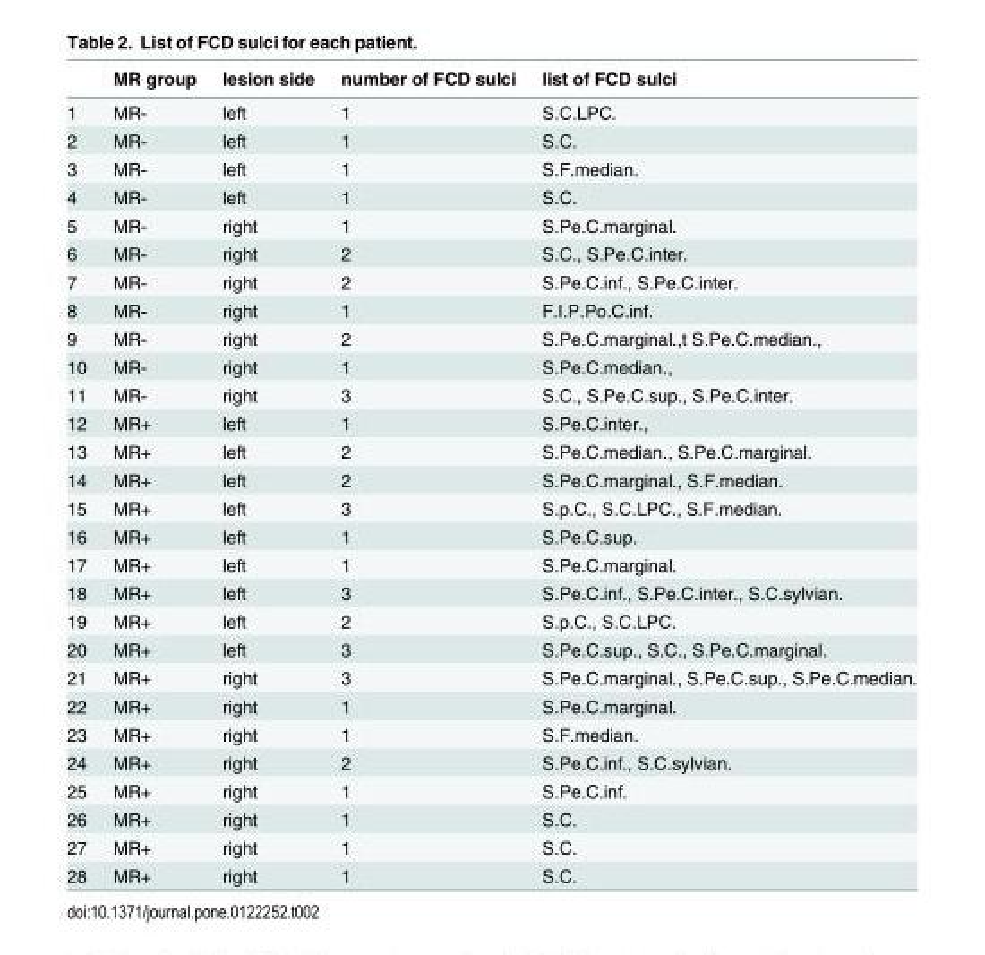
<table><thead><tr><td></td><td>MR group</td><td>lesion side</td><td>number of FCD sulci</td><td>list of FCD sulci</td></tr></thead><tbody><tr><td>1</td><td>MR-</td><td>left</td><td>1</td><td>S.C.LPC.</td></tr><tr><td>2</td><td>MR-</td><td>left</td><td>1</td><td>S.C.</td></tr><tr><td>3</td><td>MR-</td><td>left</td><td>1</td><td>S.F.median.</td></tr><tr><td>4</td><td>MR-</td><td>left</td><td>1</td><td>S.C.</td></tr><tr><td>5</td><td>MR-</td><td>right</td><td>1</td><td>S.Pe.C.marginal.</td></tr><tr><td>6</td><td>MR-</td><td>right</td><td>2</td><td>S.C., S.Pe.C.inter.</td></tr><tr><td>7</td><td>MR-</td><td>right</td><td>2</td><td>S.Pe.C.inf., S.Pe.C.inter.</td></tr><tr><td>8</td><td>MR-</td><td>right</td><td>1</td><td>F.I.P.Po.C.inf.</td></tr><tr><td>9</td><td>MR-</td><td>right</td><td>2</td><td>S.Pe.C.marginal.,t S.Pe.C.median.,</td></tr><tr><td>10</td><td>MR-</td><td>right</td><td>1</td><td>S.Pe.C.median.,</td></tr><tr><td>11</td><td>MR-</td><td>right</td><td>3</td><td>S.C., S.Pe.C.sup., S.Pe.C.inter.</td></tr><tr><td>12</td><td>MR+</td><td>left</td><td>1</td><td>S.Pe.C.inter.,</td></tr><tr><td>13</td><td>MR+</td><td>left</td><td>2</td><td>S.Pe.C.median., S.Pe.C.marginal.</td></tr><tr><td>14</td><td>MR+</td><td>left</td><td>2</td><td>S.Pe.C.marginal., S.F.median.</td></tr><tr><td>15</td><td>MR+</td><td>left</td><td>3</td><td>S.p.C., S.C.LPC., S.F.median.</td></tr><tr><td>16</td><td>MR+</td><td>left</td><td>1</td><td>S.Pe.C.sup.</td></tr><tr><td>17</td><td>MR+</td><td>left</td><td>1</td><td>S.Pe.C.marginal.</td></tr><tr><td>18</td><td>MR+</td><td>left</td><td>3</td><td>S.Pe.C.inf., S.Pe.C.inter., S.C.sylvian.</td></tr><tr><td>19</td><td>MR+</td><td>left</td><td>2</td><td>S.p.C., S.C.LPC.</td></tr><tr><td>20</td><td>MR+</td><td>left</td><td>3</td><td>S.Pe.C.sup., S.C., S.Pe.C.marginal.</td></tr><tr><td>21</td><td>MR+</td><td>right</td><td>3</td><td>S.Pe.C.marginal., S.Pe.C.sup., S.Pe.C.median.</td></tr><tr><td>22</td><td>MR+</td><td>right</td><td>1</td><td>S.Pe.C.marginal.</td></tr><tr><td>23</td><td>MR+</td><td>right</td><td>1</td><td>S.F.median.</td></tr><tr><td>24</td><td>MR+</td><td>right</td><td>2</td><td>S.Pe.C.inf., S.C.sylvian.</td></tr><tr><td>25</td><td>MR+</td><td>right</td><td>1</td><td>S.Pe.C.inf.</td></tr><tr><td>26</td><td>MR+</td><td>right</td><td>1</td><td>S.C.</td></tr><tr><td>27</td><td>MR+</td><td>right</td><td>1</td><td>S.C.</td></tr><tr><td>28</td><td>MR+</td><td>right</td><td>1</td><td>S.C.</td></tr></tbody></table>